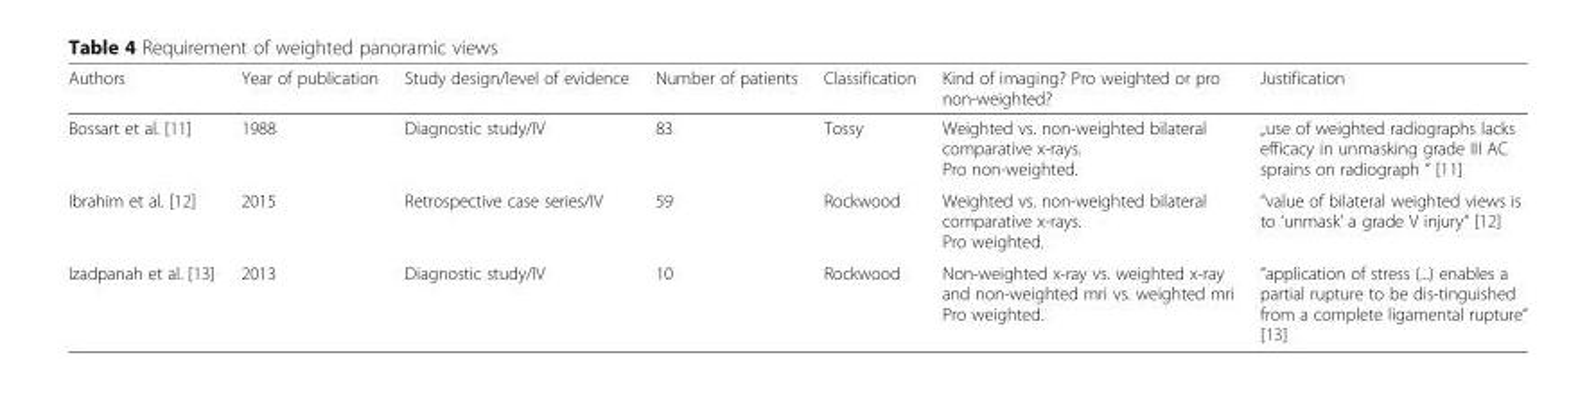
<table><thead><tr><td>Authors</td><td>Year of publication</td><td>Study design/level of evidence</td><td>Number of patients</td><td>Classification</td><td>Kind of imaging? Pro weighted or pro non-weighted?</td><td>Justification</td></tr></thead><tbody><tr><td>Bossart et al. [11]</td><td>1988</td><td>Diagnostic study/IV</td><td>83</td><td>Tossy</td><td>Weighted vs. non-weighted bilateral comparative x-rays. Pro non-weighted.</td><td>„use of weighted radiographs lacks efficacy in unmasking grade III AC sprains on radiograph “ [11]</td></tr><tr><td>Ibrahim et al. [12]</td><td>2015</td><td>Retrospective case series/IV</td><td>59</td><td>Rockwood</td><td>Weighted vs. non-weighted bilateral comparative x-rays. Pro weighted.</td><td>“value of bilateral weighted views is to ‘unmask’ a grade V injury“ [12]</td></tr><tr><td>Izadpanah et al. [13]</td><td>2013</td><td>Diagnostic study/IV</td><td>10</td><td>Rockwood</td><td>Non-weighted x-ray vs. weighted x-ray and non-weighted mri vs. weighted mri Pro weighted.</td><td>“application of stress (...) enables a partial rupture to be dis-tinguished from a complete ligamental rupture“ [13]</td></tr></tbody></table>